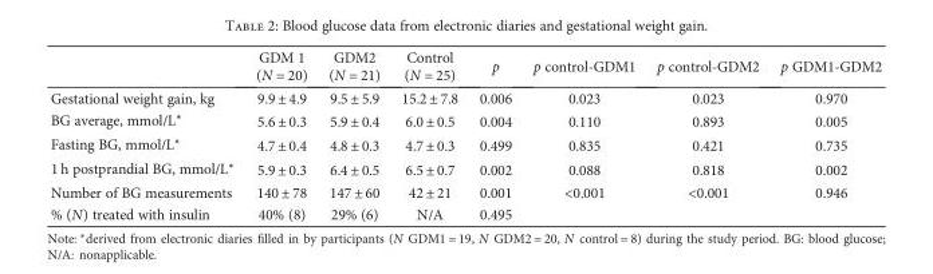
<table><thead><tr><td></td><td>GDM 1 (N = 20)</td><td>GDM2 (N = 21)</td><td>Control (N = 25)</td><td>p</td><td>p control-GDM1</td><td>p control-GDM2</td><td>p GDM1-GDM2</td></tr></thead><tbody><tr><td>Gestational weight gain, kg</td><td>9.9 ± 4.9</td><td>9.5 ± 5.9</td><td>15.2 ± 7.8</td><td>0.006</td><td>0.023</td><td>0.023</td><td>0.970</td></tr><tr><td>BG average, mmol/L∗</td><td>5.6 ± 0.3</td><td>5.9 ± 0.4</td><td>6.0 ± 0.5</td><td>0.004</td><td>0.110</td><td>0.893</td><td>0.005</td></tr><tr><td>Fasting BG, mmol/L∗</td><td>4.7 ± 0.4</td><td>4.8 ± 0.3</td><td>4.7 ± 0.3</td><td>0.499</td><td>0.835</td><td>0.421</td><td>0.735</td></tr><tr><td>1 h postprandial BG, mmol/L∗</td><td>5.9 ± 0.3</td><td>6.4 ± 0.5</td><td>6.5 ± 0.7</td><td>0.002</td><td>0.088</td><td>0.818</td><td>0.002</td></tr><tr><td>Number of BG measurements</td><td>140 ± 78</td><td>147 ± 60</td><td>42 ± 21</td><td>0.001</td><td>&lt;0.001</td><td>&lt;0.001</td><td>0.946</td></tr><tr><td>% (N) treated with insulin</td><td>40% (8)</td><td>29% (6)</td><td>N/A</td><td>0.495</td><td></td><td></td><td></td></tr></tbody></table>